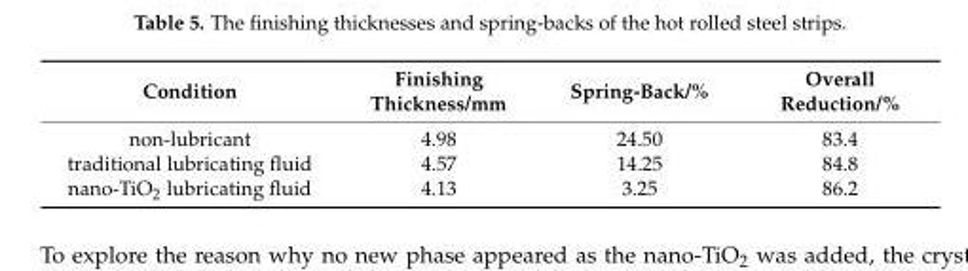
<table><thead><tr><td>Condition</td><td>Finishing Thickness/mm</td><td>Spring-Back/%</td><td>Overall Reduction/%</td></tr></thead><tbody><tr><td>non-lubricant</td><td>4.98</td><td>24.50</td><td>83.4</td></tr><tr><td>traditional lubricating fluid</td><td>4.57</td><td>14.25</td><td>84.8</td></tr><tr><td>nano-TiO<sub>2</sub> lubricating fluid</td><td>4.13</td><td>3.25</td><td>86.2</td></tr></tbody></table>